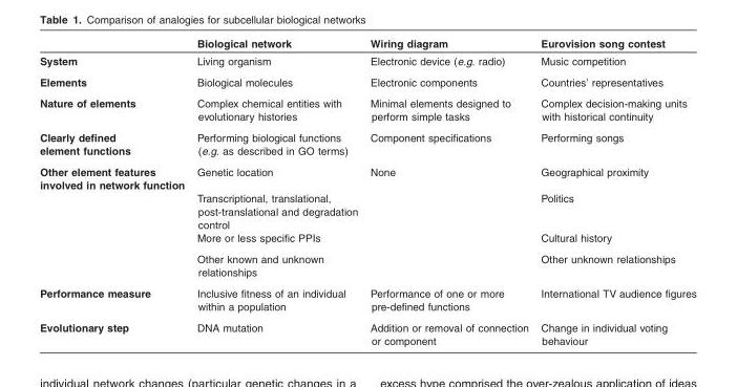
<table><thead><tr><td></td><td>Biological network</td><td>Wiring diagram</td><td>Eurovision song contest</td></tr></thead><tbody><tr><td>System</td><td>Living organism</td><td>Electronic device (e.g. radio)</td><td>Music competition</td></tr><tr><td>Elements</td><td>Biological molecules</td><td>Electronic components</td><td>Countries’ representatives</td></tr><tr><td>Nature of elements</td><td>Complex chemical entities with evolutionary histories</td><td>Minimal elements designed to perform simple tasks</td><td>Complex decision-making units with historical continuity</td></tr><tr><td>Clearly defined element functions</td><td>Performing biological functions (e.g. as described in GO terms)</td><td>Component specifications</td><td>Performing songs</td></tr><tr><td rowspan="4">Other element features involved in network function</td><td>Genetic location</td><td>None</td><td>Geographical proximity</td></tr><tr><td>Transcriptional, translational, post-translational and degradation control</td><td></td><td>Politics</td></tr><tr><td>More or less specific PPIs</td><td></td><td>Cultural history</td></tr><tr><td>Other known and unknown relationships</td><td></td><td>Other unknown relationships</td></tr><tr><td>Performance measure</td><td>Inclusive fitness of an individual within a population</td><td>Performance of one or more pre-defined functions</td><td>International TV audience figures</td></tr><tr><td>Evolutionary step</td><td>DNA mutation</td><td>Addition or removal of connection or component</td><td>Change in individual voting behaviour</td></tr></tbody></table>